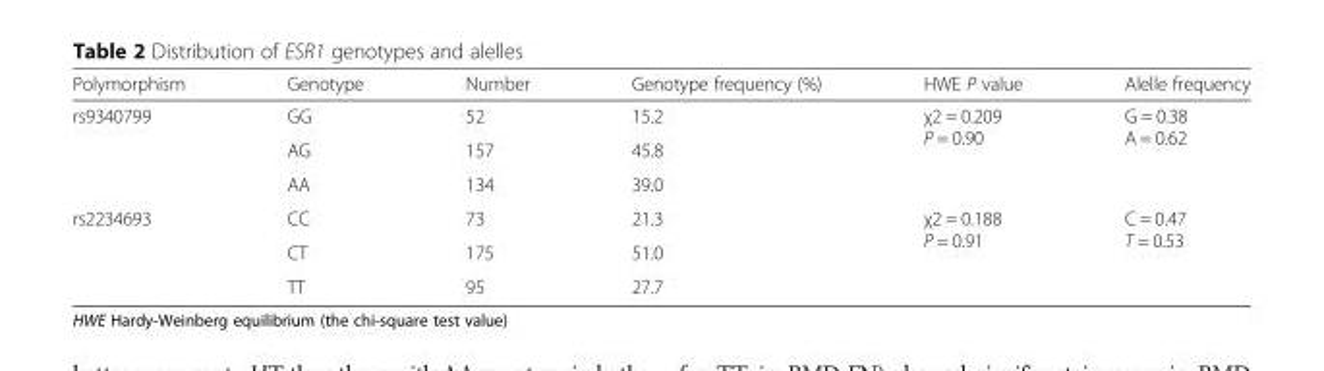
<table><thead><tr><td>Polymorphism</td><td>Genotype</td><td>Number</td><td>Genotype frequency (%)</td><td>HWE P value</td><td>Alelle frequency</td></tr></thead><tbody><tr><td rowspan="3">rs9340799</td><td>GG</td><td>52</td><td>15.2</td><td rowspan="3">χ2 = 0.209 P = 0.90</td><td rowspan="3">G = 0.38 A = 0.62</td></tr><tr><td>AG</td><td>157</td><td>45.8</td></tr><tr><td>AA</td><td>134</td><td>39.0</td></tr><tr><td rowspan="3">rs2234693</td><td>CC</td><td>73</td><td>21.3</td><td rowspan="3">χ2 = 0.188 P = 0.91</td><td rowspan="3">C = 0.47 T = 0.53</td></tr><tr><td>CT</td><td>175</td><td>51.0</td></tr><tr><td>TT</td><td>95</td><td>27.7</td></tr></tbody></table>